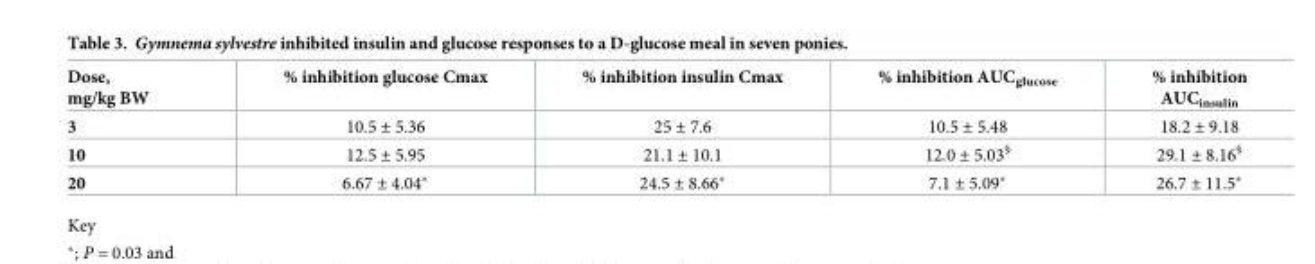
<table><thead><tr><td>Dose, mg/kg BW</td><td>% inhibition glucose Cmax</td><td>% inhibition insulin Cmax</td><td>% inhibition AUC<sub>glucose</sub></td><td>% inhibition AUC<sub>insulin</sub></td></tr></thead><tbody><tr><td>3</td><td>10.5 ± 5.36</td><td>25 ± 7.6</td><td>10.5 ± 5.48</td><td>18.2 ± 9.18</td></tr><tr><td>10</td><td>12.5 ± 5.95</td><td>21.1 ± 10.1</td><td>12.0 ± 5.03<sup>§</sup></td><td>29.1 ± 8.16<sup>§</sup></td></tr><tr><td>20</td><td>6.67 ± 4.04*</td><td>24.5 ± 8.66*</td><td>7.1 ± 5.09*</td><td>26.7 ± 11.5*</td></tr></tbody></table>